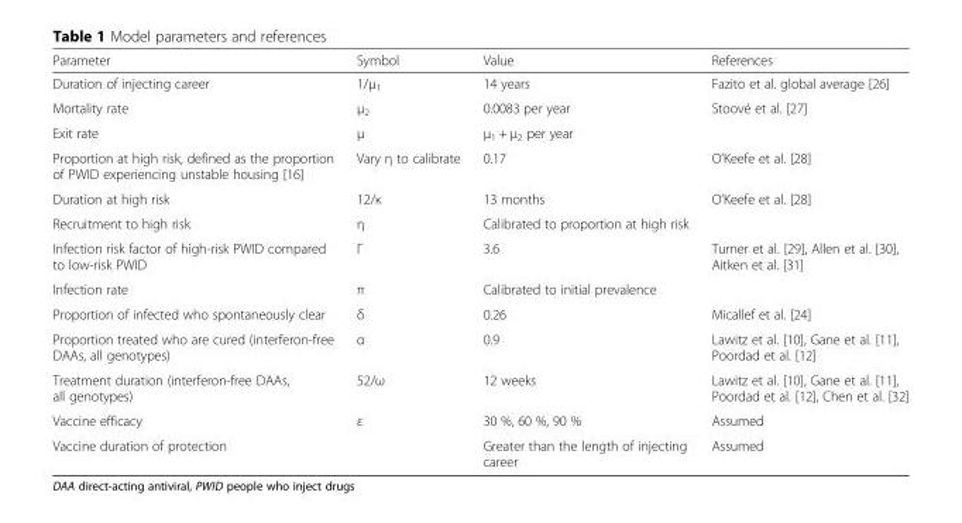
<table><thead><tr><td>Parameter</td><td>Symbol</td><td>Value</td><td>References</td></tr></thead><tbody><tr><td>Duration of injecting career</td><td>1/μ<sub>1</sub></td><td>14 years</td><td>Fazito et al. global average [26]</td></tr><tr><td>Mortality rate</td><td>μ<sub>2</sub></td><td>0.0083 per year</td><td>Stoové et al. [27]</td></tr><tr><td>Exit rate</td><td>μ</td><td>μ<sub>1</sub> + μ<sub>2</sub> per year</td><td></td></tr><tr><td>Proportion at high risk, defined as the proportion of PWID experiencing unstable housing [16]</td><td>Vary η to calibrate</td><td>0.17</td><td>O’Keefe et al. [28]</td></tr><tr><td>Duration at high risk</td><td>12/κ</td><td>13 months</td><td>O’Keefe et al. [28]</td></tr><tr><td>Recruitment to high risk</td><td>η</td><td>Calibrated to proportion at high risk</td><td></td></tr><tr><td>Infection risk factor of high-risk PWID compared to low-risk PWID</td><td>Γ</td><td>3.6</td><td>Turner et al. [29], Allen et al. [30], Aitken et al. [31]</td></tr><tr><td>Infection rate</td><td>π</td><td>Calibrated to initial prevalence</td><td></td></tr><tr><td>Proportion of infected who spontaneously clear</td><td>δ</td><td>0.26</td><td>Micallef et al. [24]</td></tr><tr><td>Proportion treated who are cured (interferon-free DAAs, all genotypes)</td><td>α</td><td>0.9</td><td>Lawitz et al. [10], Gane et al. [11], Poordad et al. [12]</td></tr><tr><td>Treatment duration (interferon-free DAAs, all genotypes)</td><td>52/ω</td><td>12 weeks</td><td>Lawitz et al. [10], Gane et al. [11], Poordad et al. [12], Chen et al. [32]</td></tr><tr><td>Vaccine efficacy</td><td>ε</td><td>30 %, 60 %, 90 %</td><td>Assumed</td></tr><tr><td>Vaccine duration of protection</td><td></td><td>Greater than the length of injecting career</td><td>Assumed</td></tr></tbody></table>